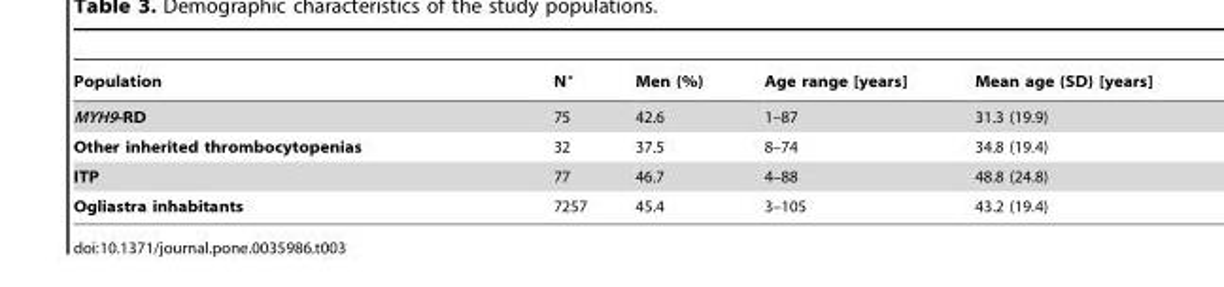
<table><thead><tr><td>Population</td><td>N°</td><td>Men (%)</td><td>Age range [years]</td><td>Mean age (SD) [years]</td></tr></thead><tbody><tr><td>MYH9-RD</td><td>75</td><td>42.6</td><td>1–87</td><td>31.3 (19.9)</td></tr><tr><td>Other inherited thrombocytopenias</td><td>32</td><td>37.5</td><td>8–74</td><td>34.8 (19.4)</td></tr><tr><td>ITP</td><td>77</td><td>46.7</td><td>4–88</td><td>48.8 (24.8)</td></tr><tr><td>Ogliastra inhabitants</td><td>7257</td><td>45.4</td><td>3–105</td><td>43.2 (19.4)</td></tr></tbody></table>